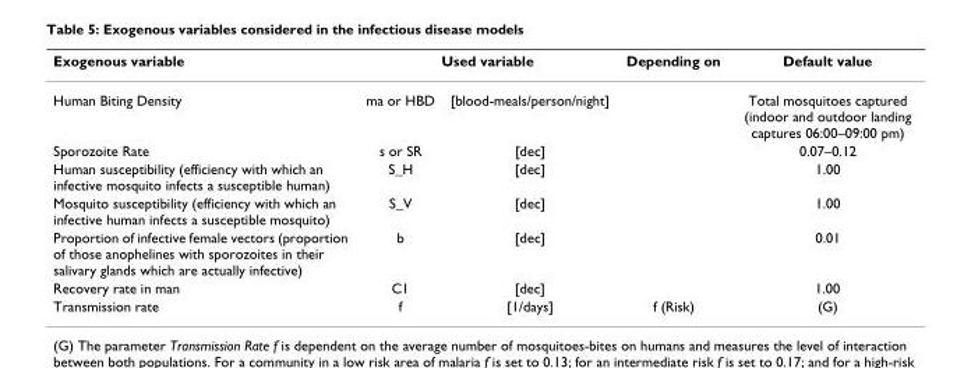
<table><thead><tr><td rowspan="2">Exogenous variable Human Biting Density</td><td colspan="2">Used variable</td><td rowspan="2">Depending on</td><td rowspan="2">Default value Total mosquitoes captured (indoor and outdoor landing captures 06:00–09:00 pm)</td></tr><tr><td>ma or HBD</td><td>[blood-meals/person/night]</td></tr></thead><tbody><tr><td>Sporozoite Rate</td><td>s or SR</td><td>[dec]</td><td></td><td>0.07–0.12</td></tr><tr><td>Human susceptibility (efficiency with which an infective mosquito infects a susceptible human)</td><td>S_H</td><td>[dec]</td><td></td><td>1.00</td></tr><tr><td>Mosquito susceptibility (efficiency with which an infective human infects a susceptible mosquito)</td><td>S_V</td><td>[dec]</td><td></td><td>1.00</td></tr><tr><td>Proportion of infective female vectors (proportion of those anophelines with sporozoites in their salivary glands which are actually infective)</td><td>b</td><td>[dec]</td><td></td><td>0.01</td></tr><tr><td>Recovery rate in man</td><td>C1</td><td>[dec]</td><td></td><td>1.00</td></tr><tr><td>Transmission rate</td><td>f</td><td>[1/days]</td><td>f (Risk)</td><td>(G)</td></tr></tbody></table>